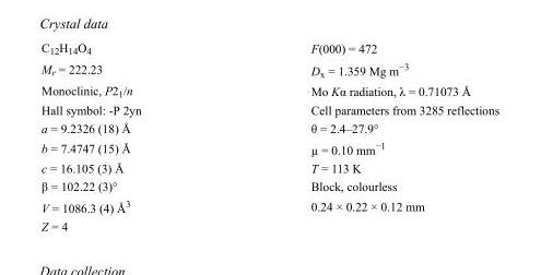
<table><tbody><tr><td>C<sub>12</sub>H<sub>14</sub>O<sub>4</sub></td><td>F(000) = 472</td></tr><tr><td>M<sub>r</sub> = 222.23</td><td>D<sub>x</sub> = 1.359 Mg m<sup>−3</sup></td></tr><tr><td>Monoclinic, P2<sub>1</sub>/n</td><td>Mo Kα radiation, λ = 0.71073 Å</td></tr><tr><td>Hall symbol: -P 2yn</td><td>Cell parameters from 3285 reflections</td></tr><tr><td>a = 9.2326 (18) Å</td><td>θ = 2.4–27.9°</td></tr><tr><td>b = 7.4747 (15) Å</td><td>µ = 0.10 mm<sup>−1</sup></td></tr><tr><td>c = 16.105 (3) Å</td><td>T = 113 K</td></tr><tr><td>β = 102.22 (3)°</td><td>Block, colourless</td></tr><tr><td>V = 1086.3 (4) Å<sup>3</sup></td><td>0.24 × 0.22 × 0.12 mm</td></tr><tr><td>Z = 4</td><td></td></tr></tbody></table>